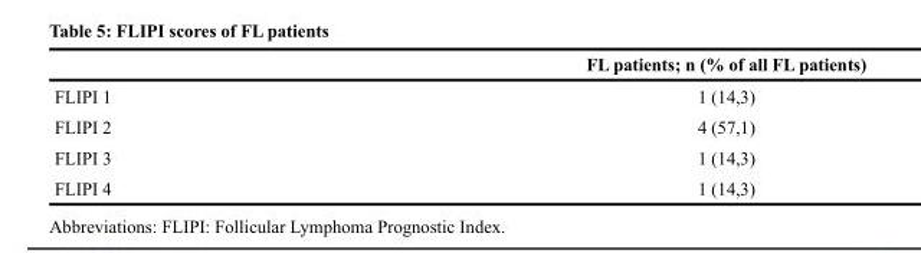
<table><thead><tr><td></td><td>FL patients; n (% of all FL patients)</td></tr></thead><tbody><tr><td>FLIPI 1</td><td>1 (14,3)</td></tr><tr><td>FLIPI 2</td><td>4 (57,1)</td></tr><tr><td>FLIPI 3</td><td>1 (14,3)</td></tr><tr><td>FLIPI 4</td><td>1 (14,3)</td></tr></tbody></table>